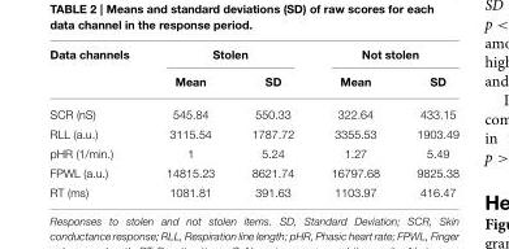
<table><thead><tr><td rowspan="2">Data channels</td><td colspan="2">Stolen</td><td colspan="2">Not stolen</td></tr><tr><td>Mean</td><td>SD</td><td>Mean</td><td>SD</td></tr></thead><tbody><tr><td>SCR (nS)</td><td>545.84</td><td>550.33</td><td>322.64</td><td>433.15</td></tr><tr><td>RLL (a.u.)</td><td>3115.54</td><td>1787.72</td><td>3355.53</td><td>1903.49</td></tr><tr><td>pHR (1/min.)</td><td>1</td><td>5.24</td><td>1.27</td><td>5.49</td></tr><tr><td>FPWL (a.u.)</td><td>14815.23</td><td>8621.74</td><td>16797.68</td><td>9825.38</td></tr><tr><td>RT (ms)</td><td>1081.81</td><td>391.63</td><td>1103.97</td><td>416.47</td></tr></tbody></table>